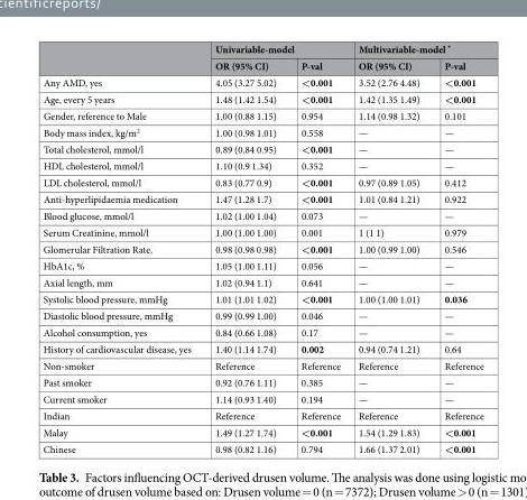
<table><thead><tr><td rowspan="2"></td><td colspan="2">Univariable-model</td><td colspan="2">Multivariable-model *</td></tr><tr><td>OR (95% CI)</td><td>P-val</td><td>OR (95% CI)</td><td>P-val</td></tr></thead><tbody><tr><td>Any AMD, yes</td><td>4.05 (3.27 5.02)</td><td>&lt;0.001</td><td>3.52 (2.76 4.48)</td><td>&lt;0.001</td></tr><tr><td>Age, every 5 years</td><td>1.48 (1.42 1.54)</td><td>&lt;0.001</td><td>1.42 (1.35 1.49)</td><td>&lt;0.001</td></tr><tr><td>Gender, reference to Male</td><td>1.00 (0.88 1.15)</td><td>0.954</td><td>1.14 (0.98 1.32)</td><td>0.101</td></tr><tr><td>Body mass index, kg/m<sup>2</sup></td><td>1.00 (0.98 1.01)</td><td>0.558</td><td>—</td><td>—</td></tr><tr><td>Total cholesterol, mmol/l</td><td>0.89 (0.84 0.95)</td><td>&lt;0.001</td><td>—</td><td>—</td></tr><tr><td>HDL cholesterol, mmol/l</td><td>1.10 (0.9 1.34)</td><td>0.352</td><td>—</td><td>—</td></tr><tr><td>LDL cholesterol, mmol/l</td><td>0.83 (0.77 0.9)</td><td>&lt;0.001</td><td>0.97 (0.89 1.05)</td><td>0.412</td></tr><tr><td>Anti-hyperlipidaemia medication</td><td>1.47 (1.28 1.7)</td><td>&lt;0.001</td><td>1.01 (0.84 1.21)</td><td>0.922</td></tr><tr><td>Blood glucose, mmol/l</td><td>1.02 (1.00 1.04)</td><td>0.073</td><td>—</td><td>—</td></tr><tr><td>Serum Creatinine, mmol/l</td><td>1.00 (1.00 1.00)</td><td>0.001</td><td>1 (1 1)</td><td>0.979</td></tr><tr><td>Glomerular Filtration Rate,</td><td>0.98 (0.98 0.98)</td><td>&lt;0.001</td><td>1.00 (0.99 1.00)</td><td>0.546</td></tr><tr><td>HbA1c, %</td><td>1.05 (1.00 1.11)</td><td>0.056</td><td>—</td><td>—</td></tr><tr><td>Axial length, mm</td><td>1.02 (0.94 1.1)</td><td>0.641</td><td>—</td><td>—</td></tr><tr><td>Systolic blood pressure, mmHg</td><td>1.01 (1.01 1.02)</td><td>&lt;0.001</td><td>1.00 (1.00 1.01)</td><td>0.036</td></tr><tr><td>Diastolic blood pressure, mmHg</td><td>0.99 (0.99 1.00)</td><td>0.046</td><td>—</td><td>—</td></tr><tr><td>Alcohol consumption, yes</td><td>0.84 (0.66 1.08)</td><td>0.17</td><td>—</td><td>—</td></tr><tr><td>History of cardiovascular disease, yes</td><td>1.40 (1.14 1.74)</td><td>0.002</td><td>0.94 (0.74 1.21)</td><td>0.64</td></tr><tr><td>Non-smoker</td><td>Reference</td><td>Reference</td><td>Reference</td><td>Reference</td></tr><tr><td>Past smoker</td><td>0.92 (0.76 1.11)</td><td>0.385</td><td>—</td><td>—</td></tr><tr><td>Current smoker</td><td>1.14 (0.93 1.40)</td><td>0.194</td><td>—</td><td>—</td></tr><tr><td>Indian</td><td>Reference</td><td>Reference</td><td>Reference</td><td>Reference</td></tr><tr><td>Malay</td><td>1.49 (1.27 1.74)</td><td>&lt;0.001</td><td>1.54 (1.29 1.83)</td><td>&lt;0.001</td></tr><tr><td>Chinese</td><td>0.98 (0.82 1.16)</td><td>0.794</td><td>1.66 (1.37 2.01)</td><td>&lt;0.001</td></tr></tbody></table>